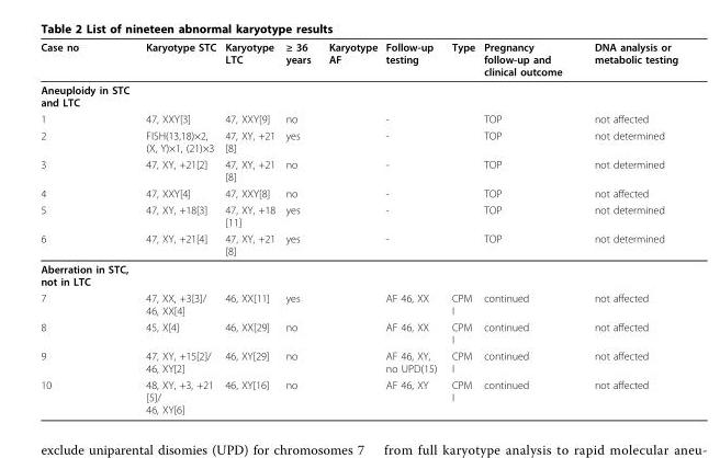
<table><thead><tr><td>Case no</td><td>Karyotype STC</td><td>Karyotype LTC</td><td>≥ 36 years</td><td>Karyotype AF</td><td>Follow-up testing</td><td>Type</td><td>Pregnancy follow-up and clinical outcome</td><td>DNA analysis or metabolic testing</td></tr></thead><tbody><tr><td colspan="9">Aneuploidy in STC and LTC</td></tr><tr><td>1</td><td>47, XXY[3]</td><td>47, XXY[9]</td><td>no</td><td></td><td>-</td><td></td><td>TOP</td><td>not affected</td></tr><tr><td>2</td><td>FISH(13,18)×2, (X, Y)×1, (21)×3</td><td>47, XY, +21 [8]</td><td>yes</td><td></td><td>-</td><td></td><td>TOP</td><td>not determined</td></tr><tr><td>3</td><td>47, XY, +21[2]</td><td>47, XY, +21 [8]</td><td>no</td><td></td><td>-</td><td></td><td>TOP</td><td>not determined</td></tr><tr><td>4</td><td>47, XXY[4]</td><td>47, XXY[8]</td><td>no</td><td></td><td>-</td><td></td><td>TOP</td><td>not affected</td></tr><tr><td>5</td><td>47, XY, +18[3]</td><td>47, XY, +18 [11]</td><td>yes</td><td></td><td>-</td><td></td><td>TOP</td><td>not determined</td></tr><tr><td>6</td><td>47, XY, +21[4]</td><td>47, XY, +21 [8]</td><td>yes</td><td></td><td>-</td><td></td><td>TOP</td><td>not determined</td></tr><tr><td colspan="9">Aberration in STC, not in LTC</td></tr><tr><td>7</td><td>47, XX, +3[3]/ 46, XX[4]</td><td>46, XX[11]</td><td>yes</td><td></td><td>AF 46, XX</td><td>CPM I</td><td>continued</td><td>not affected</td></tr><tr><td>8</td><td>45, X[4]</td><td>46, XX[29]</td><td>no</td><td></td><td>AF 46, XX</td><td>CPM I</td><td>continued</td><td>not affected</td></tr><tr><td>9</td><td>47, XY, +15[2]/ 46, XY[2]</td><td>46, XY[29]</td><td>no</td><td></td><td>AF 46, XY, no UPD(15)</td><td>CPM I</td><td>continued</td><td>not affected</td></tr><tr><td>10</td><td>48, XY, +3, +21 [5]/ 46, XY[6]</td><td>46, XY[16]</td><td>no</td><td></td><td>AF 46, XY</td><td>CPM I</td><td>continued</td><td>not affected</td></tr></tbody></table>